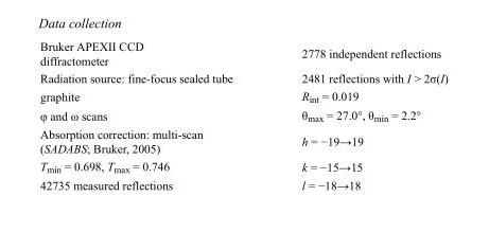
<table><tbody><tr><td>Bruker APEXII CCD diffractometer</td><td>2778 independent reflections</td></tr><tr><td>Radiation source: fine-focus sealed tube</td><td>2481 reflections with I &gt; 2σ(I)</td></tr><tr><td>graphite</td><td>R<sub>int</sub> = 0.019</td></tr><tr><td>φ and ω scans</td><td>θ<sub>max</sub> = 27.0°, θ<sub>min</sub> = 2.2°</td></tr><tr><td>Absorption correction: multi-scan (SADABS; Bruker, 2005)</td><td>h = −19→19</td></tr><tr><td>T<sub>min</sub> = 0.698, T<sub>max</sub> = 0.746</td><td>k = −15→15</td></tr><tr><td>42735 measured reflections</td><td>l = −18→18</td></tr></tbody></table>